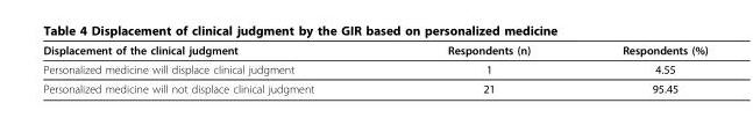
<table><thead><tr><td>Displacement of the clinical judgment</td><td>Respondents (n)</td><td>Respondents (%)</td></tr></thead><tbody><tr><td>Personalized medicine will displace clinical judgment</td><td>1</td><td>4.55</td></tr><tr><td>Personalized medicine will not displace clinical judgment</td><td>21</td><td>95.45</td></tr></tbody></table>